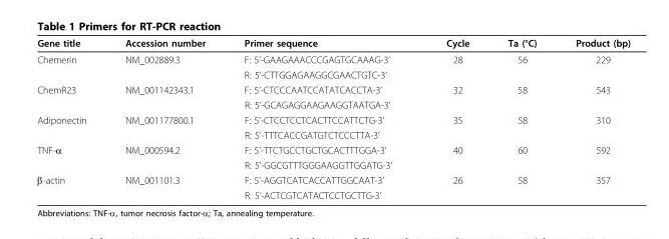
<table><thead><tr><td>Gene title</td><td>Accession number</td><td>Primer sequence</td><td>Cycle</td><td>Ta (°C)</td><td>Product (bp)</td></tr></thead><tbody><tr><td rowspan="2">Chemerin</td><td>NM_002889.3</td><td>F: 5’-GAAGAAACCCGAGTGCAAAG-3’</td><td>28</td><td>56</td><td>229</td></tr><tr><td></td><td>R: 5’-CTTGGAGAAGGCGAACTGTC-3’</td><td></td><td></td><td></td></tr><tr><td rowspan="2">ChemR23</td><td>NM_001142343.1</td><td>F: 5’-CTCCCAATCCATATCACCTA-3’</td><td>32</td><td>58</td><td>543</td></tr><tr><td></td><td>R: 5’-GCAGAGGAAGAAGGTAATGA-3’</td><td></td><td></td><td></td></tr><tr><td rowspan="2">Adiponectin</td><td>NM_001177800.1</td><td>F: 5’-CTCCTCCTCACTTCCATTCTG-3’</td><td>35</td><td>58</td><td>310</td></tr><tr><td></td><td>R: 5’-TTTCACCGATGTCTCCCTTA-3’</td><td></td><td></td><td></td></tr><tr><td rowspan="2">TNF-α</td><td>NM_000594.2</td><td>F: 5’-TTCTGCCTGCTGCACTTTGGA-3’</td><td>40</td><td>60</td><td>592</td></tr><tr><td></td><td>R: 5’-GGCGTTTGGGAAGGTTGGATG-3’</td><td></td><td></td><td></td></tr><tr><td rowspan="2">β-actin</td><td>NM_001101.3</td><td>F: 5’-AGGTCATCACCATTGGCAAT-3’</td><td>26</td><td>58</td><td>357</td></tr><tr><td></td><td>R: 5’-ACTCGTCATACTCCTGCTTG-3’</td><td></td><td></td><td></td></tr></tbody></table>